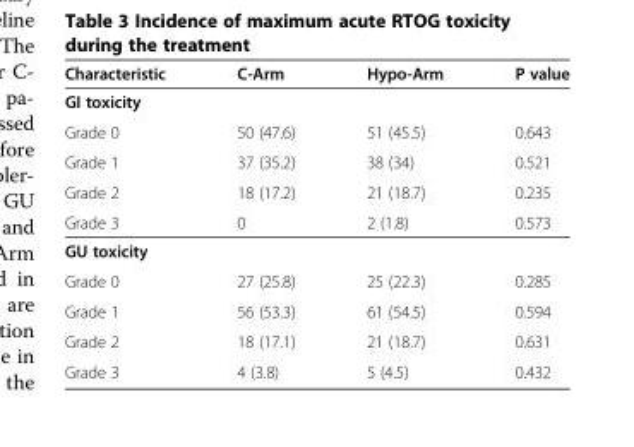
<table><thead><tr><td>Characteristic</td><td>C-Arm</td><td>Hypo-Arm</td><td>P value</td></tr></thead><tbody><tr><td colspan="4">GI toxicity</td></tr><tr><td>Grade 0</td><td>50 (47.6)</td><td>51 (45.5)</td><td>0.643</td></tr><tr><td>Grade 1</td><td>37 (35.2)</td><td>38 (34)</td><td>0.521</td></tr><tr><td>Grade 2</td><td>18 (17.2)</td><td>21 (18.7)</td><td>0.235</td></tr><tr><td>Grade 3</td><td>0</td><td>2 (1.8)</td><td>0.573</td></tr><tr><td colspan="4">GU toxicity</td></tr><tr><td>Grade 0</td><td>27 (25.8)</td><td>25 (22.3)</td><td>0.285</td></tr><tr><td>Grade 1</td><td>56 (53.3)</td><td>61 (54.5)</td><td>0.594</td></tr><tr><td>Grade 2</td><td>18 (17.1)</td><td>21 (18.7)</td><td>0.631</td></tr><tr><td>Grade 3</td><td>4 (3.8)</td><td>5 (4.5)</td><td>0.432</td></tr></tbody></table>